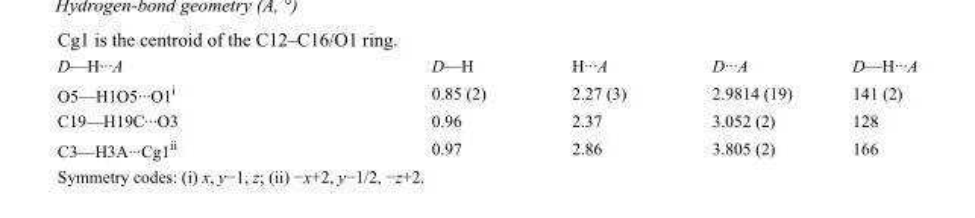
<table><tbody><tr><td>D—H···A</td><td>D—H</td><td>H···A</td><td>D···A</td><td>D—H···A</td></tr><tr><td>O5—H1O5···O1<sup>i</sup></td><td>0.85 (2)</td><td>2.27 (3)</td><td>2.9814 (19)</td><td>141 (2)</td></tr><tr><td>C19—H19C···O3</td><td>0.96</td><td>2.37</td><td>3.052 (2)</td><td>128</td></tr><tr><td>C3—H3A···Cg1<sup>ii</sup></td><td>0.97</td><td>2.86</td><td>3.805 (2)</td><td>166</td></tr></tbody></table>